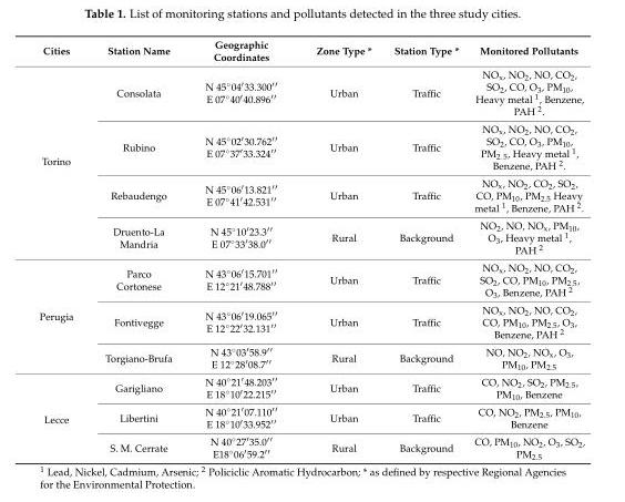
<table><thead><tr><td>Cities</td><td>Station Name</td><td>Geographic Coordinates</td><td>Zone Type *</td><td>Station Type *</td><td>Monitored Pollutants</td></tr></thead><tbody><tr><td rowspan="4">Torino</td><td>Consolata</td><td>N 45◦04′33.300′′ E 07◦40′40.896′′</td><td>Urban</td><td>Traffic</td><td>NO<sub>x</sub>, NO<sub>2</sub>, NO, CO<sub>2</sub>, SO<sub>2</sub>, CO, O<sub>3</sub>, PM<sub>10</sub>, Heavy metal <sup>1</sup>, Benzene, PAH <sup>2</sup>.</td></tr><tr><td>Rubino</td><td>N 45◦02′30.762′′ E 07◦37′33.324′′</td><td>Urban</td><td>Traffic</td><td>NO<sub>x</sub>, NO<sub>2</sub>, NO, CO<sub>2</sub>, SO<sub>2</sub>, CO, O<sub>3</sub>, PM<sub>10</sub>, PM<sub>2.5</sub>, Heavy metal <sup>1</sup>, Benzene, PAH <sup>2</sup>.</td></tr><tr><td>Rebaudengo</td><td>N 45◦06′13.821′′ E 07◦41′42.531′′</td><td>Urban</td><td>Traffic</td><td>NO<sub>x</sub>, NO<sub>2</sub>, CO<sub>2</sub>, SO<sub>2</sub>, CO, PM<sub>10</sub>, PM<sub>2.5</sub> Heavy metal <sup>1</sup>, Benzene, PAH <sup>2</sup>.</td></tr><tr><td>Druento-La Mandria</td><td>N 45◦10′23.3′′ E 07◦33′38.0′′</td><td>Rural</td><td>Background</td><td>NO<sub>2</sub>, NO, NO<sub>x</sub>, PM<sub>10</sub>, O<sub>3</sub>, Heavy metal <sup>1</sup>, PAH <sup>2</sup></td></tr><tr><td rowspan="3">Perugia</td><td>Parco Cortonese</td><td>N 43◦06′15.701′′ E 12◦21′48.788′′</td><td>Urban</td><td>Traffic</td><td>NO<sub>x</sub>, NO<sub>2</sub>, NO, CO<sub>2</sub>, SO<sub>2</sub>, CO, PM<sub>10</sub>, PM<sub>2.5</sub>, O<sub>3</sub>, Benzene, PAH <sup>2</sup></td></tr><tr><td>Fontivegge</td><td>N 43◦06′19.065′′ E 12◦22′32.131′′</td><td>Urban</td><td>Traffic</td><td>NO<sub>x</sub>, NO<sub>2</sub>, NO, CO<sub>2</sub>, CO, PM<sub>10</sub>, PM<sub>2.5</sub>, O<sub>3</sub>, Benzene, PAH <sup>2</sup></td></tr><tr><td>Torgiano-Brufa</td><td>N 43◦03′58.9′′ E 12◦28′08.7′′</td><td>Rural</td><td>Background</td><td>NO, NO<sub>2</sub>, NO<sub>x</sub>, O<sub>3</sub>, PM<sub>10</sub>, PM<sub>2.5</sub></td></tr><tr><td rowspan="3">Lecce</td><td>Garigliano</td><td>N 40◦21′48.203′′ E 18◦10′22.215′′</td><td>Urban</td><td>Traffic</td><td>CO, NO<sub>2</sub>, SO<sub>2</sub>, PM<sub>2.5</sub>, PM<sub>10</sub>, Benzene</td></tr><tr><td>Libertini</td><td>N 40◦21′07.110′′ E 18◦10′33.952′′</td><td>Urban</td><td>Traffic</td><td>CO, NO<sub>2</sub>, PM<sub>2.5</sub>, PM<sub>10</sub>, Benzene</td></tr><tr><td>S. M. Cerrate</td><td>N 40◦27′35.0′′ E18◦06′59.2′′</td><td>Rural</td><td>Background</td><td>CO, PM<sub>10</sub>, NO<sub>2</sub>, O<sub>3</sub>, SO<sub>2</sub>, PM<sub>2.5</sub></td></tr></tbody></table>